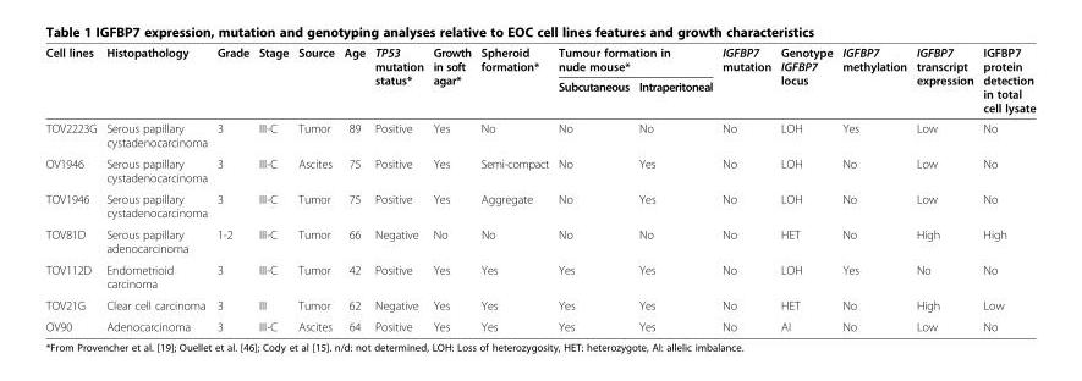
<table><thead><tr><td rowspan="2">Cell lines</td><td rowspan="2">Histopathology</td><td rowspan="2">Grade</td><td rowspan="2">Stage</td><td rowspan="2">Source</td><td rowspan="2">Age</td><td rowspan="2">TP53 mutation status*</td><td rowspan="2">Growth in soft agar*</td><td rowspan="2">Spheroid formation*</td><td colspan="2">Tumour formation in nude mouse*</td><td rowspan="2">IGFBP7 mutation</td><td rowspan="2">Genotype IGFBP7 locus</td><td rowspan="2">IGFBP7 methylation</td><td rowspan="2">IGFBP7 transcript expression</td><td rowspan="2">IGFBP7 protein detection in total cell lysate</td></tr><tr><td>Subcutaneous</td><td>Intraperitoneal</td></tr></thead><tbody><tr><td>TOV2223G</td><td>Serous papillary cystadenocarcinoma</td><td>3</td><td>III-C</td><td>Tumor</td><td>89</td><td>Positive</td><td>Yes</td><td>No</td><td>No</td><td>No</td><td>No</td><td>LOH</td><td>Yes</td><td>Low</td><td>No</td></tr><tr><td>OV1946</td><td>Serous papillary cystadenocarcinoma</td><td>3</td><td>III-C</td><td>Ascites</td><td>75</td><td>Positive</td><td>Yes</td><td>Semi-compact</td><td>No</td><td>Yes</td><td>No</td><td>LOH</td><td>No</td><td>Low</td><td>No</td></tr><tr><td>TOV1946</td><td>Serous papillary cystadenocarcinoma</td><td>3</td><td>III-C</td><td>Tumor</td><td>75</td><td>Positive</td><td>Yes</td><td>Aggregate</td><td>No</td><td>Yes</td><td>No</td><td>LOH</td><td>No</td><td>Low</td><td>No</td></tr><tr><td>TOV81D</td><td>Serous papillary adenocarcinoma</td><td>1-2</td><td>III-C</td><td>Tumor</td><td>66</td><td>Negative</td><td>No</td><td>No</td><td>No</td><td>No</td><td>No</td><td>HET</td><td>No</td><td>High</td><td>High</td></tr><tr><td>TOV112D</td><td>Endometrioid carcinoma</td><td>3</td><td>III-C</td><td>Tumor</td><td>42</td><td>Positive</td><td>Yes</td><td>Yes</td><td>Yes</td><td>Yes</td><td>No</td><td>LOH</td><td>Yes</td><td>No</td><td>No</td></tr><tr><td>TOV21G</td><td>Clear cell carcinoma</td><td>3</td><td>III</td><td>Tumor</td><td>62</td><td>Negative</td><td>Yes</td><td>Yes</td><td>Yes</td><td>Yes</td><td>No</td><td>HET</td><td>No</td><td>High</td><td>Low</td></tr><tr><td>OV90</td><td>Adenocarcinoma</td><td>3</td><td>III-C</td><td>Ascites</td><td>64</td><td>Positive</td><td>Yes</td><td>Yes</td><td>Yes</td><td>Yes</td><td>No</td><td>AI</td><td>No</td><td>Low</td><td>No</td></tr></tbody></table>